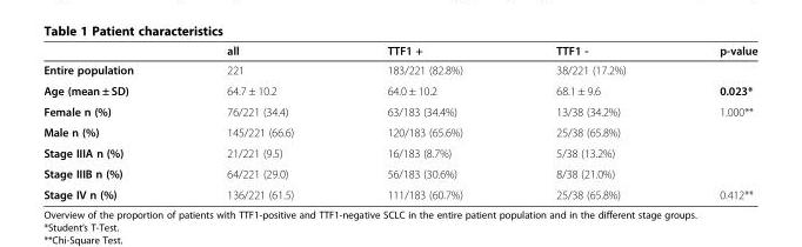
<table><thead><tr><td></td><td>all</td><td>TTF1 +</td><td>TTF1 -</td><td>p-value</td></tr></thead><tbody><tr><td>Entire population</td><td>221</td><td>183/221 (82.8%)</td><td>38/221 (17.2%)</td><td></td></tr><tr><td>Age (mean ± SD)</td><td>64.7 ± 10.2</td><td>64.0 ± 10.2</td><td>68.1 ± 9.6</td><td>0.023*</td></tr><tr><td>Female n (%)</td><td>76/221 (34.4)</td><td>63/183 (34.4%)</td><td>13/38 (34.2%)</td><td rowspan="2">1.000**</td></tr><tr><td>Male n (%)</td><td>145/221 (66.6)</td><td>120/183 (65.6%)</td><td>25/38 (65.8%)</td></tr><tr><td>Stage IIIA n (%)</td><td>21/221 (9.5)</td><td>16/183 (8.7%)</td><td>5/38 (13.2%)</td><td></td></tr><tr><td>Stage IIIB n (%)</td><td>64/221 (29.0)</td><td>56/183 (30.6%)</td><td>8/38 (21.0%)</td><td></td></tr><tr><td>Stage IV n (%)</td><td>136/221 (61.5)</td><td>111/183 (60.7%)</td><td>25/38 (65.8%)</td><td>0.412**</td></tr></tbody></table>